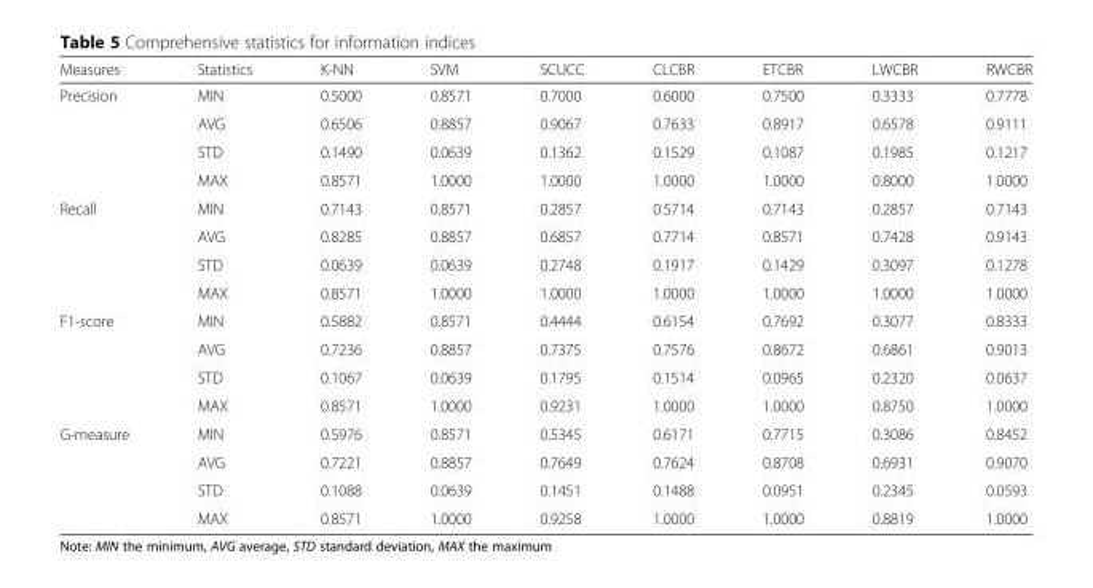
<table><thead><tr><td>Measures</td><td>Statistics</td><td>K-NN</td><td>SVM</td><td>SCUCC</td><td>CLCBR</td><td>ETCBR</td><td>LWCBR</td><td>RWCBR</td></tr></thead><tbody><tr><td rowspan="4">Precision</td><td>MIN</td><td>0.5000</td><td>0.8571</td><td>0.7000</td><td>0.6000</td><td>0.7500</td><td>0.3333</td><td>0.7778</td></tr><tr><td>AVG</td><td>0.6506</td><td>0.8857</td><td>0.9067</td><td>0.7633</td><td>0.8917</td><td>0.6578</td><td>0.9111</td></tr><tr><td>STD</td><td>0.1490</td><td>0.0639</td><td>0.1362</td><td>0.1529</td><td>0.1087</td><td>0.1985</td><td>0.1217</td></tr><tr><td>MAX</td><td>0.8571</td><td>1.0000</td><td>1.0000</td><td>1.0000</td><td>1.0000</td><td>0.8000</td><td>1.0000</td></tr><tr><td rowspan="4">Recall</td><td>MIN</td><td>0.7143</td><td>0.8571</td><td>0.2857</td><td>0.5714</td><td>0.7143</td><td>0.2857</td><td>0.7143</td></tr><tr><td>AVG</td><td>0.8285</td><td>0.8857</td><td>0.6857</td><td>0.7714</td><td>0.8571</td><td>0.7428</td><td>0.9143</td></tr><tr><td>STD</td><td>0.0639</td><td>0.0639</td><td>0.2748</td><td>0.1917</td><td>0.1429</td><td>0.3097</td><td>0.1278</td></tr><tr><td>MAX</td><td>0.8571</td><td>1.0000</td><td>1.0000</td><td>1.0000</td><td>1.0000</td><td>1.0000</td><td>1.0000</td></tr><tr><td rowspan="4">F1-score</td><td>MIN</td><td>0.5882</td><td>0.8571</td><td>0.4444</td><td>0.6154</td><td>0.7692</td><td>0.3077</td><td>0.8333</td></tr><tr><td>AVG</td><td>0.7236</td><td>0.8857</td><td>0.7375</td><td>0.7576</td><td>0.8672</td><td>0.6861</td><td>0.9013</td></tr><tr><td>STD</td><td>0.1067</td><td>0.0639</td><td>0.1795</td><td>0.1514</td><td>0.0965</td><td>0.2320</td><td>0.0637</td></tr><tr><td>MAX</td><td>0.8571</td><td>1.0000</td><td>0.9231</td><td>1.0000</td><td>1.0000</td><td>0.8750</td><td>1.0000</td></tr><tr><td rowspan="4">G-measure</td><td>MIN</td><td>0.5976</td><td>0.8571</td><td>0.5345</td><td>0.6171</td><td>0.7715</td><td>0.3086</td><td>0.8452</td></tr><tr><td>AVG</td><td>0.7221</td><td>0.8857</td><td>0.7649</td><td>0.7624</td><td>0.8708</td><td>0.6931</td><td>0.9070</td></tr><tr><td>STD</td><td>0.1088</td><td>0.0639</td><td>0.1451</td><td>0.1488</td><td>0.0951</td><td>0.2345</td><td>0.0593</td></tr><tr><td>MAX</td><td>0.8571</td><td>1.0000</td><td>0.9258</td><td>1.0000</td><td>1.0000</td><td>0.8819</td><td>1.0000</td></tr></tbody></table>